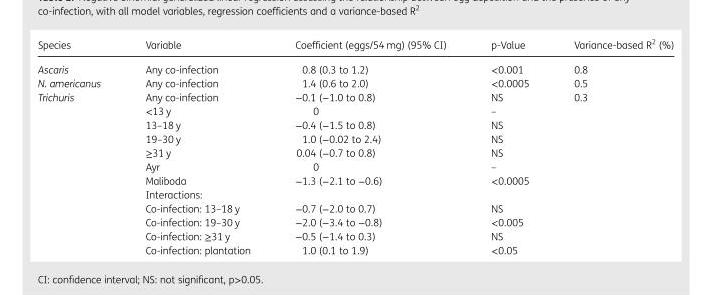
<table><thead><tr><td>Species</td><td>Variable</td><td>Coefficient (eggs/54 mg) (95% CI)</td><td>p-Value</td><td>Variance-based R<sup>2</sup> (%)</td></tr></thead><tbody><tr><td>Ascaris</td><td>Any co-infection</td><td>0.8 (0.3 to 1.2)</td><td>&lt;0.001</td><td>0.8</td></tr><tr><td>N. americanus</td><td>Any co-infection</td><td>1.4 (0.6 to 2.0)</td><td>&lt;0.0005</td><td>0.5</td></tr><tr><td rowspan="12">Trichuris</td><td>Any co-infection</td><td>−0.1 (−1.0 to 0.8)</td><td>NS</td><td>0.3</td></tr><tr><td>&lt;13 y</td><td>0</td><td>–</td><td></td></tr><tr><td>13–18 y</td><td>−0.4 (−1.5 to 0.8)</td><td>NS</td><td></td></tr><tr><td>19–30 y</td><td>1.0 (−0.02 to 2.4)</td><td>NS</td><td></td></tr><tr><td>≥31 y</td><td>0.04 (−0.7 to 0.8)</td><td>NS</td><td></td></tr><tr><td>Ayr</td><td>0</td><td>–</td><td></td></tr><tr><td>Maliboda</td><td>−1.3 (−2.1 to −0.6)</td><td>&lt;0.0005</td><td></td></tr><tr><td>Interactions:</td><td></td><td></td><td></td></tr><tr><td>Co-infection: 13–18 y</td><td>−0.7 (−2.0 to 0.7)</td><td>NS</td><td></td></tr><tr><td>Co-infection: 19–30 y</td><td>−2.0 (−3.4 to −0.8)</td><td>&lt;0.005</td><td></td></tr><tr><td>Co-infection: ≥31 y</td><td>−0.5 (−1.4 to 0.3)</td><td>NS</td><td></td></tr><tr><td>Co-infection: plantation</td><td>1.0 (0.1 to 1.9)</td><td>&lt;0.05</td><td></td></tr></tbody></table>